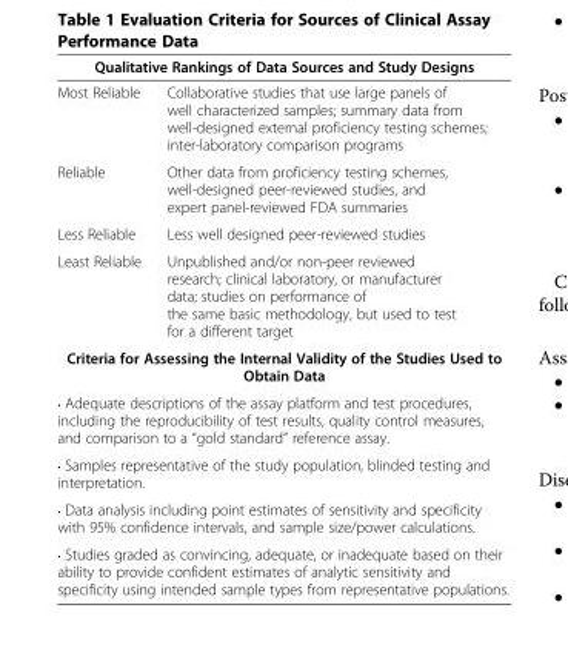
<table><thead><tr><td colspan="2">Qualitative Rankings of Data Sources and Study Designs</td></tr><tr><td>Most Reliable</td><td>Collaborative studies that use large panels of well characterized samples; summary data from well-designed external proficiency testing schemes; inter-laboratory comparison programs</td></tr></thead><tbody><tr><td>Reliable</td><td>Other data from proficiency testing schemes, well-designed peer-reviewed studies, and expert panel-reviewed FDA summaries</td></tr><tr><td>Less Reliable</td><td>Less well designed peer-reviewed studies</td></tr><tr><td>Least Reliable</td><td>Unpublished and/or non-peer reviewed research; clinical laboratory, or manufacturer data; studies on performance of the same basic methodology, but used to test for a different target</td></tr><tr><td colspan="2">Criteria for Assessing the Internal Validity of the Studies Used to Obtain Data</td></tr><tr><td colspan="2">• Adequate descriptions of the assay platform and test procedures, including the reproducibility of test results, quality control measures, and comparison to a “gold standard” reference assay.</td></tr><tr><td colspan="2">• Samples representative of the study population, blinded testing and interpretation.</td></tr><tr><td colspan="2">• Data analysis including point estimates of sensitivity and specificity with 95% confidence intervals, and sample size/power calculations.</td></tr><tr><td colspan="2">• Studies graded as convincing, adequate, or inadequate based on their ability to provide confident estimates of analytic sensitivity and specificity using intended sample types from representative populations.</td></tr></tbody></table>